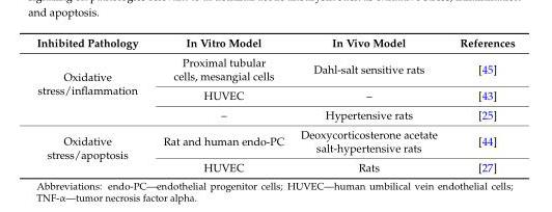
<table><thead><tr><td>Inhibited Pathology</td><td>In Vitro Model</td><td>In Vivo Model</td><td>References</td></tr></thead><tbody><tr><td rowspan="3">Oxidative stress/inflammation</td><td>Proximal tubular cells, mesangial cells</td><td>Dahl-salt sensitive rats</td><td>[45]</td></tr><tr><td>HUVEC</td><td>–</td><td>[43]</td></tr><tr><td>–</td><td>Hypertensive rats</td><td>[25]</td></tr><tr><td rowspan="2">Oxidative stress/apoptosis</td><td>Rat and human endo-PC</td><td>Deoxycorticosterone acetate salt-hypertensive rats</td><td>[44]</td></tr><tr><td>HUVEC</td><td>Rats</td><td>[27]</td></tr></tbody></table>